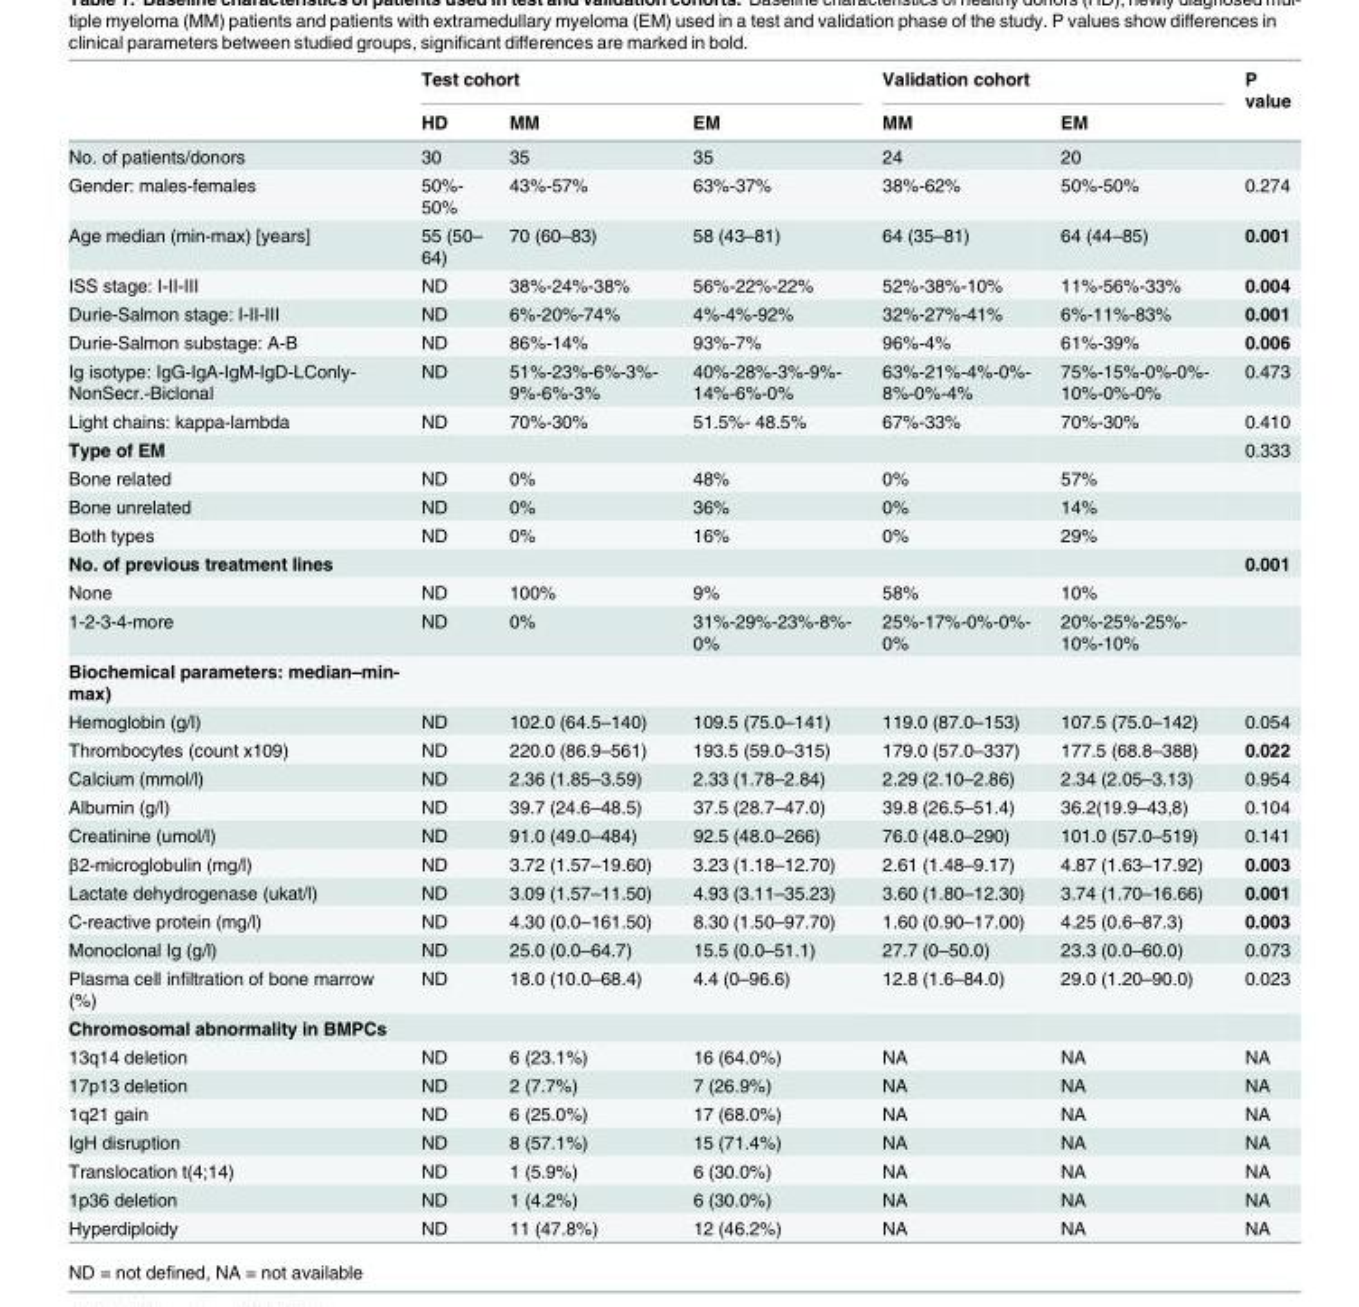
<table><thead><tr><td rowspan="2"></td><td colspan="3">Test cohort</td><td colspan="2">Validation cohort</td><td rowspan="2">P value</td></tr><tr><td>HD</td><td>MM</td><td>EM</td><td>MM</td><td>EM</td></tr></thead><tbody><tr><td>No. of patients/donors</td><td>30</td><td>35</td><td>35</td><td>24</td><td>20</td><td></td></tr><tr><td>Gender: males-females</td><td>50%- 50%</td><td>43%-57%</td><td>63%-37%</td><td>38%-62%</td><td>50%-50%</td><td>0.274</td></tr><tr><td>Age median (min-max) [years]</td><td>55 (50– 64)</td><td>70 (60–83)</td><td>58 (43–81)</td><td>64 (35–81)</td><td>64 (44–85)</td><td>0.001</td></tr><tr><td>ISS stage: I-II-III</td><td>ND</td><td>38%-24%-38%</td><td>56%-22%-22%</td><td>52%-38%-10%</td><td>11%-56%-33%</td><td>0.004</td></tr><tr><td>Durie-Salmon stage: I-II-III</td><td>ND</td><td>6%-20%-74%</td><td>4%-4%-92%</td><td>32%-27%-41%</td><td>6%-11%-83%</td><td>0.001</td></tr><tr><td>Durie-Salmon substage: A-B</td><td>ND</td><td>86%-14%</td><td>93%-7%</td><td>96%-4%</td><td>61%-39%</td><td>0.006</td></tr><tr><td>Ig isotype: IgG-IgA-IgM-IgD-LConly- NonSecr.-Biclonal</td><td>ND</td><td>51%-23%-6%-3%- 9%-6%-3%</td><td>40%-28%-3%-9%- 14%-6%-0%</td><td>63%-21%-4%-0%- 8%-0%-4%</td><td>75%-15%-0%-0%- 10%-0%-0%</td><td>0.473</td></tr><tr><td>Light chains: kappa-lambda</td><td>ND</td><td>70%-30%</td><td>51.5%- 48.5%</td><td>67%-33%</td><td>70%-30%</td><td>0.410</td></tr><tr><td>Type of EM</td><td></td><td></td><td></td><td></td><td></td><td>0.333</td></tr><tr><td>Bone related</td><td>ND</td><td>0%</td><td>48%</td><td>0%</td><td>57%</td><td></td></tr><tr><td>Bone unrelated</td><td>ND</td><td>0%</td><td>36%</td><td>0%</td><td>14%</td><td></td></tr><tr><td>Both types</td><td>ND</td><td>0%</td><td>16%</td><td>0%</td><td>29%</td><td></td></tr><tr><td>No. of previous treatment lines</td><td></td><td></td><td></td><td></td><td></td><td>0.001</td></tr><tr><td>None</td><td>ND</td><td>100%</td><td>9%</td><td>58%</td><td>10%</td><td></td></tr><tr><td>1-2-3-4-more</td><td>ND</td><td>0%</td><td>31%-29%-23%-8%- 0%</td><td>25%-17%-0%-0%- 0%</td><td>20%-25%-25%- 10%-10%</td><td></td></tr><tr><td colspan="7">Biochemical parameters: median–min- max)</td></tr><tr><td>Hemoglobin (g/l)</td><td>ND</td><td>102.0 (64.5–140)</td><td>109.5 (75.0–141)</td><td>119.0 (87.0–153)</td><td>107.5 (75.0–142)</td><td>0.054</td></tr><tr><td>Thrombocytes (count x109)</td><td>ND</td><td>220.0 (86.9–561)</td><td>193.5 (59.0–315)</td><td>179.0 (57.0–337)</td><td>177.5 (68.8–388)</td><td>0.022</td></tr><tr><td>Calcium (mmol/l)</td><td>ND</td><td>2.36 (1.85–3.59)</td><td>2.33 (1.78–2.84)</td><td>2.29 (2.10–2.86)</td><td>2.34 (2.05–3.13)</td><td>0.954</td></tr><tr><td>Albumin (g/l)</td><td>ND</td><td>39.7 (24.6–48.5)</td><td>37.5 (28.7–47.0)</td><td>39.8 (26.5–51.4)</td><td>36.2(19.9–43,8)</td><td>0.104</td></tr><tr><td>Creatinine (umol/l)</td><td>ND</td><td>91.0 (49.0–484)</td><td>92.5 (48.0–266)</td><td>76.0 (48.0–290)</td><td>101.0 (57.0–519)</td><td>0.141</td></tr><tr><td>β2-microglobulin (mg/l)</td><td>ND</td><td>3.72 (1.57–19.60)</td><td>3.23 (1.18–12.70)</td><td>2.61 (1.48–9.17)</td><td>4.87 (1.63–17.92)</td><td>0.003</td></tr><tr><td>Lactate dehydrogenase (ukat/l)</td><td>ND</td><td>3.09 (1.57–11.50)</td><td>4.93 (3.11–35.23)</td><td>3.60 (1.80–12.30)</td><td>3.74 (1.70–16.66)</td><td>0.001</td></tr><tr><td>C-reactive protein (mg/l)</td><td>ND</td><td>4.30 (0.0–161.50)</td><td>8.30 (1.50–97.70)</td><td>1.60 (0.90–17.00)</td><td>4.25 (0.6–87.3)</td><td>0.003</td></tr><tr><td>Monoclonal Ig (g/l)</td><td>ND</td><td>25.0 (0.0–64.7)</td><td>15.5 (0.0–51.1)</td><td>27.7 (0–50.0)</td><td>23.3 (0.0–60.0)</td><td>0.073</td></tr><tr><td>Plasma cell infiltration of bone marrow (%)</td><td>ND</td><td>18.0 (10.0–68.4)</td><td>4.4 (0–96.6)</td><td>12.8 (1.6–84.0)</td><td>29.0 (1.20–90.0)</td><td>0.023</td></tr><tr><td colspan="7">Chromosomal abnormality in BMPCs</td></tr><tr><td>13q14 deletion</td><td>ND</td><td>6 (23.1%)</td><td>16 (64.0%)</td><td>NA</td><td>NA</td><td>NA</td></tr><tr><td>17p13 deletion</td><td>ND</td><td>2 (7.7%)</td><td>7 (26.9%)</td><td>NA</td><td>NA</td><td>NA</td></tr><tr><td>1q21 gain</td><td>ND</td><td>6 (25.0%)</td><td>17 (68.0%)</td><td>NA</td><td>NA</td><td>NA</td></tr><tr><td>IgH disruption</td><td>ND</td><td>8 (57.1%)</td><td>15 (71.4%)</td><td>NA</td><td>NA</td><td>NA</td></tr><tr><td>Translocation t(4;14)</td><td>ND</td><td>1 (5.9%)</td><td>6 (30.0%)</td><td>NA</td><td>NA</td><td>NA</td></tr><tr><td>1p36 deletion</td><td>ND</td><td>1 (4.2%)</td><td>6 (30.0%)</td><td>NA</td><td>NA</td><td>NA</td></tr><tr><td>Hyperdiploidy</td><td>ND</td><td>11 (47.8%)</td><td>12 (46.2%)</td><td>NA</td><td>NA</td><td>NA</td></tr></tbody></table>